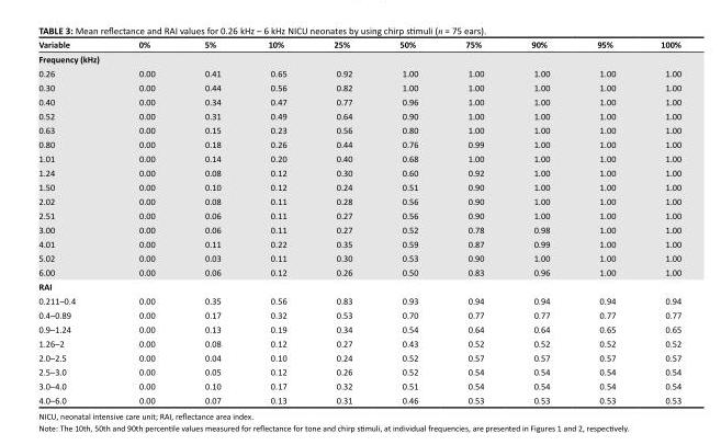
<table><thead><tr><td>Variable</td><td>0%</td><td>5%</td><td>10%</td><td>25%</td><td>50%</td><td>75%</td><td>90%</td><td>95%</td><td>100%</td></tr></thead><tbody><tr><td colspan="10">Frequency (kHz)</td></tr><tr><td>0.26</td><td>0.00</td><td>0.41</td><td>0.65</td><td>0.92</td><td>1.00</td><td>1.00</td><td>1.00</td><td>1.00</td><td>1.00</td></tr><tr><td>0.30</td><td>0.00</td><td>0.44</td><td>0.56</td><td>0.82</td><td>1.00</td><td>1.00</td><td>1.00</td><td>1.00</td><td>1.00</td></tr><tr><td>0.40</td><td>0.00</td><td>0.34</td><td>0.47</td><td>0.77</td><td>0.96</td><td>1.00</td><td>1.00</td><td>1.00</td><td>1.00</td></tr><tr><td>0.52</td><td>0.00</td><td>0.31</td><td>0.49</td><td>0.64</td><td>0.90</td><td>1.00</td><td>1.00</td><td>1.00</td><td>1.00</td></tr><tr><td>0.63</td><td>0.00</td><td>0.15</td><td>0.23</td><td>0.56</td><td>0.80</td><td>1.00</td><td>1.00</td><td>1.00</td><td>1.00</td></tr><tr><td>0.80</td><td>0.00</td><td>0.18</td><td>0.26</td><td>0.44</td><td>0.76</td><td>0.99</td><td>1.00</td><td>1.00</td><td>1.00</td></tr><tr><td>1.01</td><td>0.00</td><td>0.14</td><td>0.20</td><td>0.40</td><td>0.68</td><td>1.00</td><td>1.00</td><td>1.00</td><td>1.00</td></tr><tr><td>1.24</td><td>0.00</td><td>0.08</td><td>0.12</td><td>0.30</td><td>0.60</td><td>0.92</td><td>1.00</td><td>1.00</td><td>1.00</td></tr><tr><td>1.50</td><td>0.00</td><td>0.10</td><td>0.12</td><td>0.24</td><td>0.51</td><td>0.90</td><td>1.00</td><td>1.00</td><td>1.00</td></tr><tr><td>2.02</td><td>0.00</td><td>0.08</td><td>0.11</td><td>0.28</td><td>0.56</td><td>0.90</td><td>1.00</td><td>1.00</td><td>1.00</td></tr><tr><td>2.51</td><td>0.00</td><td>0.06</td><td>0.11</td><td>0.27</td><td>0.56</td><td>0.90</td><td>1.00</td><td>1.00</td><td>1.00</td></tr><tr><td>3.00</td><td>0.00</td><td>0.06</td><td>0.11</td><td>0.27</td><td>0.52</td><td>0.78</td><td>0.98</td><td>1.00</td><td>1.00</td></tr><tr><td>4.01</td><td>0.00</td><td>0.11</td><td>0.22</td><td>0.35</td><td>0.59</td><td>0.87</td><td>0.99</td><td>1.00</td><td>1.00</td></tr><tr><td>5.02</td><td>0.00</td><td>0.03</td><td>0.11</td><td>0.30</td><td>0.53</td><td>0.90</td><td>1.00</td><td>1.00</td><td>1.00</td></tr><tr><td>6.00</td><td>0.00</td><td>0.06</td><td>0.12</td><td>0.26</td><td>0.50</td><td>0.83</td><td>0.96</td><td>1.00</td><td>1.00</td></tr><tr><td colspan="10">RAI</td></tr><tr><td>0.211–0.4</td><td>0.00</td><td>0.35</td><td>0.56</td><td>0.83</td><td>0.93</td><td>0.94</td><td>0.94</td><td>0.94</td><td>0.94</td></tr><tr><td>0.4–0.89</td><td>0.00</td><td>0.17</td><td>0.32</td><td>0.53</td><td>0.70</td><td>0.77</td><td>0.77</td><td>0.77</td><td>0.77</td></tr><tr><td>0.9–1.24</td><td>0.00</td><td>0.13</td><td>0.19</td><td>0.34</td><td>0.54</td><td>0.64</td><td>0.64</td><td>0.65</td><td>0.65</td></tr><tr><td>1.26–2</td><td>0.00</td><td>0.08</td><td>0.12</td><td>0.27</td><td>0.43</td><td>0.52</td><td>0.52</td><td>0.52</td><td>0.52</td></tr><tr><td>2.0–2.5</td><td>0.00</td><td>0.04</td><td>0.10</td><td>0.24</td><td>0.52</td><td>0.57</td><td>0.57</td><td>0.57</td><td>0.57</td></tr><tr><td>2.5–3.0</td><td>0.00</td><td>0.05</td><td>0.12</td><td>0.26</td><td>0.52</td><td>0.54</td><td>0.54</td><td>0.54</td><td>0.54</td></tr><tr><td>3.0–4.0</td><td>0.00</td><td>0.10</td><td>0.17</td><td>0.32</td><td>0.51</td><td>0.54</td><td>0.54</td><td>0.54</td><td>0.54</td></tr><tr><td>4.0–6.0</td><td>0.00</td><td>0.07</td><td>0.13</td><td>0.31</td><td>0.46</td><td>0.53</td><td>0.53</td><td>0.53</td><td>0.53</td></tr></tbody></table>